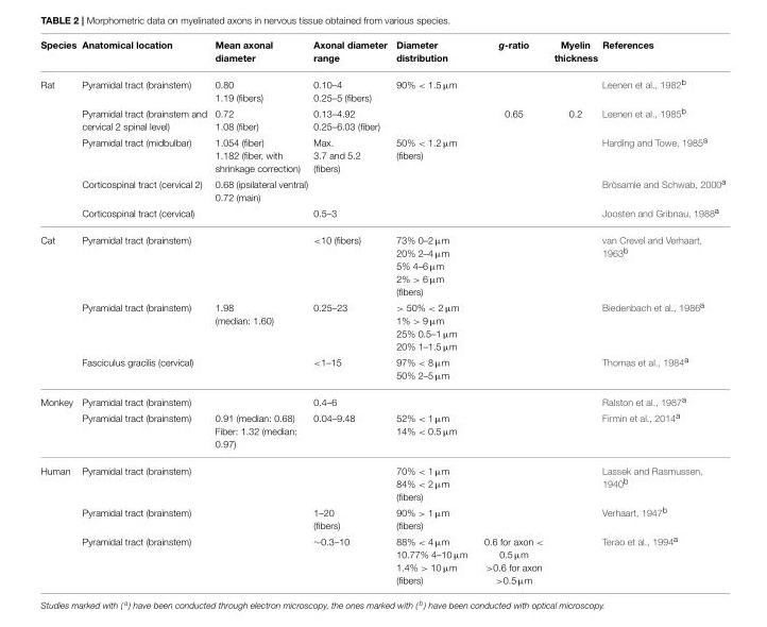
<table><thead><tr><td>Species</td><td>Anatomical location</td><td>Mean axonal diameter</td><td>Axonal diameter range</td><td>Diameter distribution</td><td>g-ratio</td><td>Myelin thickness</td><td>References</td></tr></thead><tbody><tr><td rowspan="5">Rat</td><td>Pyramidal tract (brainstem)</td><td>0.80 1.19 (fibers)</td><td>0.10–4 0.25–5 (fibers)</td><td>90% &lt; 1.5 µm</td><td></td><td></td><td>Leenen et al., 1982<sup>b</sup></td></tr><tr><td>Pyramidal tract (brainstem and cervical 2 spinal level)</td><td>0.72 1.08 (fiber)</td><td>0.13–4.92 0.25–6.03 (fiber)</td><td></td><td>0.65</td><td>0.2</td><td>Leenen et al., 1985<sup>b</sup></td></tr><tr><td>Pyramidal tract (midbulbar)</td><td>1.054 (fiber) 1.182 (fiber, with shrinkage correction)</td><td>Max. 3.7 and 5.2 (fibers)</td><td>50% &lt; 1.2 µm (fibers)</td><td></td><td></td><td>Harding and Towe, 1985<sup>a</sup></td></tr><tr><td>Corticospinal tract (cervical 2)</td><td>0.68 (ipsilateral ventral) 0.72 (main)</td><td></td><td></td><td></td><td></td><td>Brösamle and Schwab, 2000<sup>a</sup></td></tr><tr><td>Corticospinal tract (cervical)</td><td></td><td>0.5–3</td><td></td><td></td><td></td><td>Joosten and Gribnau, 1988<sup>a</sup></td></tr><tr><td rowspan="3">Cat</td><td>Pyramidal tract (brainstem)</td><td></td><td>&lt;10 (fibers)</td><td>73% 0–2 µm 20% 2–4 µm 5% 4–6 µm 2% &gt; 6 µm (fibers)</td><td></td><td></td><td>van Crevel and Verhaart, 1963<sup>b</sup></td></tr><tr><td>Pyramidal tract (brainstem)</td><td>1.98 (median: 1.60)</td><td>0.25–23</td><td>&gt; 50% &lt; 2 µm 1% &gt; 9 µm 25% 0.5–1 µm 20% 1–1.5 µm</td><td></td><td></td><td>Biedenbach et al., 1986<sup>a</sup></td></tr><tr><td>Fasciculus gracilis (cervical)</td><td></td><td>&lt;1–15</td><td>97% &lt; 8 µm 50% 2–5 µm</td><td></td><td></td><td>Thomas et al., 1984<sup>a</sup></td></tr><tr><td rowspan="2">Monkey</td><td>Pyramidal tract (brainstem)</td><td></td><td>0.4–6</td><td></td><td></td><td></td><td>Ralston et al., 1987<sup>a</sup></td></tr><tr><td>Pyramidal tract (brainstem)</td><td>0.91 (median: 0.68) Fiber: 1.32 (median: 0.97)</td><td>0.04–9.48</td><td>52% &lt; 1 µm 14% &lt; 0.5 µm</td><td></td><td></td><td>Firmin et al., 2014<sup>a</sup></td></tr><tr><td rowspan="3">Human</td><td>Pyramidal tract (brainstem)</td><td></td><td></td><td>70% &lt; 1 µm 84% &lt; 2 µm (fibers)</td><td></td><td></td><td>Lassek and Rasmussen, 1940<sup>b</sup></td></tr><tr><td>Pyramidal tract (brainstem)</td><td></td><td>1–20 (fibers)</td><td>90% &gt; 1 µm (fibers)</td><td></td><td></td><td>Verhaart, 1947<sup>b</sup></td></tr><tr><td>Pyramidal tract (brainstem)</td><td></td><td>∼0.3–10</td><td>88% &lt; 4 µm 10.77% 4–10 µm 1.4% &gt; 10 µm (fibers)</td><td>0.6 for axon &lt; 0.5 µm &gt;0.6 for axon &gt;0.5 µm</td><td></td><td>Terao et al., 1994<sup>a</sup></td></tr></tbody></table>